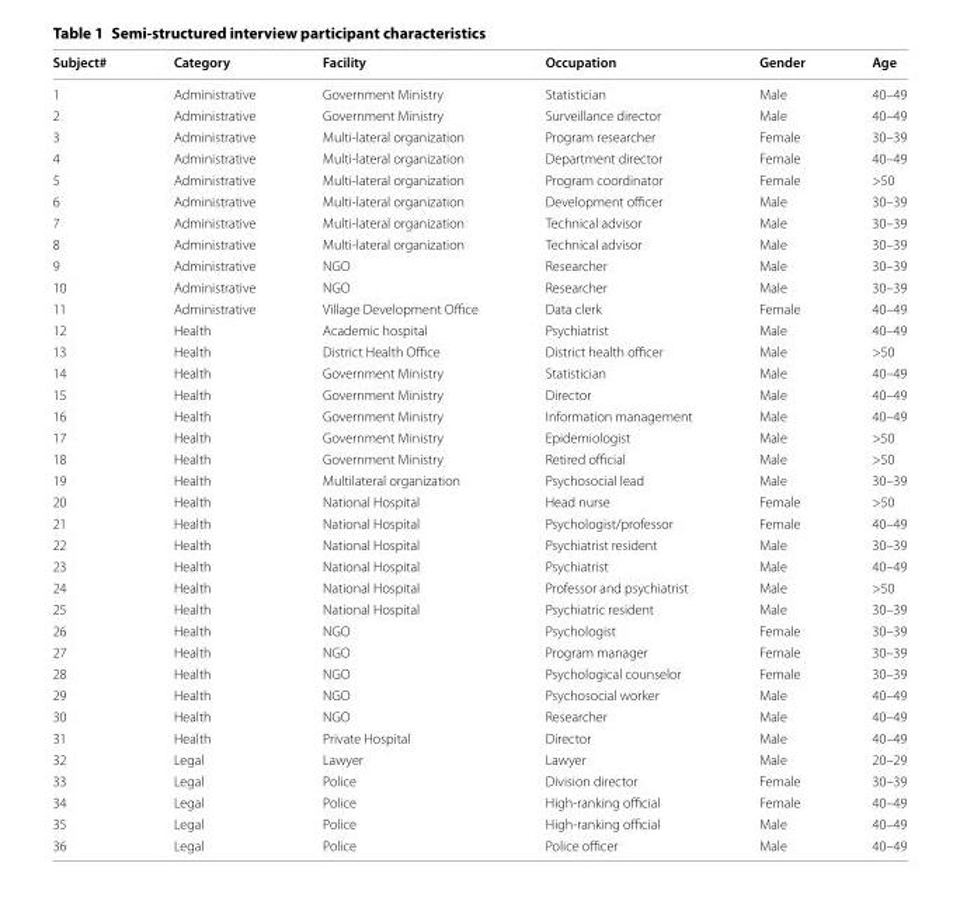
<table><thead><tr><td>Subject#</td><td>Category</td><td>Facility</td><td>Occupation</td><td>Gender</td><td>Age</td></tr></thead><tbody><tr><td>1</td><td>Administrative</td><td>Government Ministry</td><td>Statistician</td><td>Male</td><td>40–49</td></tr><tr><td>2</td><td>Administrative</td><td>Government Ministry</td><td>Surveillance director</td><td>Male</td><td>40–49</td></tr><tr><td>3</td><td>Administrative</td><td>Multi-lateral organization</td><td>Program researcher</td><td>Female</td><td>30–39</td></tr><tr><td>4</td><td>Administrative</td><td>Multi-lateral organization</td><td>Department director</td><td>Female</td><td>40–49</td></tr><tr><td>5</td><td>Administrative</td><td>Multi-lateral organization</td><td>Program coordinator</td><td>Female</td><td>&gt;50</td></tr><tr><td>6</td><td>Administrative</td><td>Multi-lateral organization</td><td>Development officer</td><td>Male</td><td>30–39</td></tr><tr><td>7</td><td>Administrative</td><td>Multi-lateral organization</td><td>Technical advisor</td><td>Male</td><td>30–39</td></tr><tr><td>8</td><td>Administrative</td><td>Multi-lateral organization</td><td>Technical advisor</td><td>Male</td><td>30–39</td></tr><tr><td>9</td><td>Administrative</td><td>NGO</td><td>Researcher</td><td>Male</td><td>30–39</td></tr><tr><td>10</td><td>Administrative</td><td>NGO</td><td>Researcher</td><td>Male</td><td>30–39</td></tr><tr><td>11</td><td>Administrative</td><td>Village Development Office</td><td>Data clerk</td><td>Female</td><td>40–49</td></tr><tr><td>12</td><td>Health</td><td>Academic hospital</td><td>Psychiatrist</td><td>Male</td><td>40–49</td></tr><tr><td>13</td><td>Health</td><td>District Health Office</td><td>District health officer</td><td>Male</td><td>&gt;50</td></tr><tr><td>14</td><td>Health</td><td>Government Ministry</td><td>Statistician</td><td>Male</td><td>40–49</td></tr><tr><td>15</td><td>Health</td><td>Government Ministry</td><td>Director</td><td>Male</td><td>40–49</td></tr><tr><td>16</td><td>Health</td><td>Government Ministry</td><td>Information management</td><td>Male</td><td>40–49</td></tr><tr><td>17</td><td>Health</td><td>Government Ministry</td><td>Epidemiologist</td><td>Male</td><td>&gt;50</td></tr><tr><td>18</td><td>Health</td><td>Government Ministry</td><td>Retired official</td><td>Male</td><td>&gt;50</td></tr><tr><td>19</td><td>Health</td><td>Multilateral organization</td><td>Psychosocial lead</td><td>Male</td><td>30–39</td></tr><tr><td>20</td><td>Health</td><td>National Hospital</td><td>Head nurse</td><td>Female</td><td>&gt;50</td></tr><tr><td>21</td><td>Health</td><td>National Hospital</td><td>Psychologist/professor</td><td>Female</td><td>40–49</td></tr><tr><td>22</td><td>Health</td><td>National Hospital</td><td>Psychiatrist resident</td><td>Male</td><td>30–39</td></tr><tr><td>23</td><td>Health</td><td>National Hospital</td><td>Psychiatrist</td><td>Male</td><td>40–49</td></tr><tr><td>24</td><td>Health</td><td>National Hospital</td><td>Professor and psychiatrist</td><td>Male</td><td>&gt;50</td></tr><tr><td>25</td><td>Health</td><td>National Hospital</td><td>Psychiatric resident</td><td>Male</td><td>30–39</td></tr><tr><td>26</td><td>Health</td><td>NGO</td><td>Psychologist</td><td>Female</td><td>30–39</td></tr><tr><td>27</td><td>Health</td><td>NGO</td><td>Program manager</td><td>Female</td><td>30–39</td></tr><tr><td>28</td><td>Health</td><td>NGO</td><td>Psychological counselor</td><td>Female</td><td>30–39</td></tr><tr><td>29</td><td>Health</td><td>NGO</td><td>Psychosocial worker</td><td>Male</td><td>40–49</td></tr><tr><td>30</td><td>Health</td><td>NGO</td><td>Researcher</td><td>Male</td><td>40–49</td></tr><tr><td>31</td><td>Health</td><td>Private Hospital</td><td>Director</td><td>Male</td><td>40–49</td></tr><tr><td>32</td><td>Legal</td><td>Lawyer</td><td>Lawyer</td><td>Male</td><td>20–29</td></tr><tr><td>33</td><td>Legal</td><td>Police</td><td>Division director</td><td>Female</td><td>30–39</td></tr><tr><td>34</td><td>Legal</td><td>Police</td><td>High-ranking official</td><td>Female</td><td>40–49</td></tr><tr><td>35</td><td>Legal</td><td>Police</td><td>High-ranking official</td><td>Male</td><td>40–49</td></tr><tr><td>36</td><td>Legal</td><td>Police</td><td>Police officer</td><td>Male</td><td>40–49</td></tr></tbody></table>